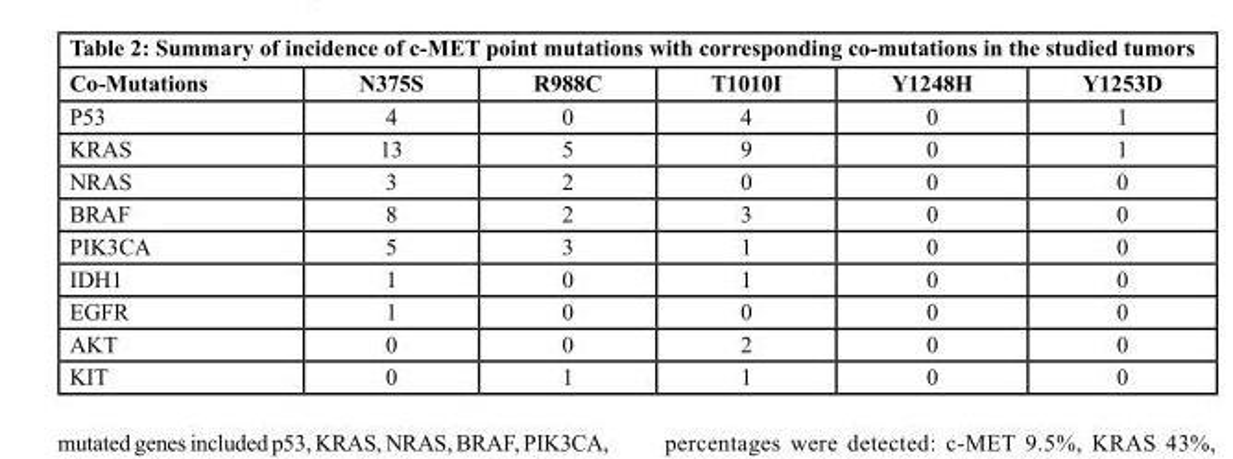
<table><thead><tr><td>Co‑Mutations</td><td>N375S</td><td>R988C</td><td>T1010I</td><td>Y1248H</td><td>Y1253D</td></tr></thead><tbody><tr><td>P53</td><td>4</td><td>0</td><td>4</td><td>0</td><td>1</td></tr><tr><td>KRAS</td><td>13</td><td>5</td><td>9</td><td>0</td><td>1</td></tr><tr><td>NRAS</td><td>3</td><td>2</td><td>0</td><td>0</td><td>0</td></tr><tr><td>BRAF</td><td>8</td><td>2</td><td>3</td><td>0</td><td>0</td></tr><tr><td>PIK3CA</td><td>5</td><td>3</td><td>1</td><td>0</td><td>0</td></tr><tr><td>IDH1</td><td>1</td><td>0</td><td>1</td><td>0</td><td>0</td></tr><tr><td>EGFR</td><td>1</td><td>0</td><td>0</td><td>0</td><td>0</td></tr><tr><td>AKT</td><td>0</td><td>0</td><td>2</td><td>0</td><td>0</td></tr><tr><td>KIT</td><td>0</td><td>1</td><td>1</td><td>0</td><td>0</td></tr></tbody></table>